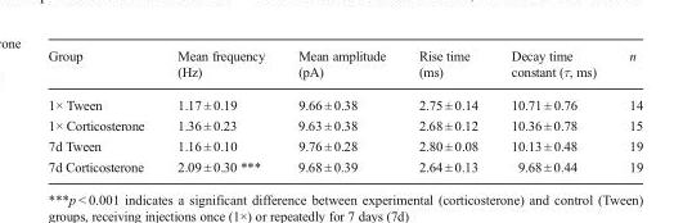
<table><thead><tr><td>Group</td><td>Mean frequency (Hz)</td><td>Mean amplitude (pA)</td><td>Rise time (ms)</td><td>Decay time constant (τ, ms)</td><td>n</td></tr></thead><tbody><tr><td>1× Tween</td><td>1.17 ± 0.19</td><td>9.66 ± 0.38</td><td>2.75 ± 0.14</td><td>10.71 ± 0.76</td><td>14</td></tr><tr><td>1× Corticosterone</td><td>1.36 ± 0.23</td><td>9.63 ± 0.38</td><td>2.68 ± 0.12</td><td>10.36 ± 0.78</td><td>15</td></tr><tr><td>7d Tween</td><td>1.16 ± 0.10</td><td>9.76 ± 0.28</td><td>2.80 ± 0.08</td><td>10.13 ± 0.48</td><td>19</td></tr><tr><td>7d Corticosterone</td><td>2.09 ± 0.30 ***</td><td>9.68 ± 0.39</td><td>2.64 ± 0.13</td><td>9.68 ± 0.44</td><td>19</td></tr></tbody></table>